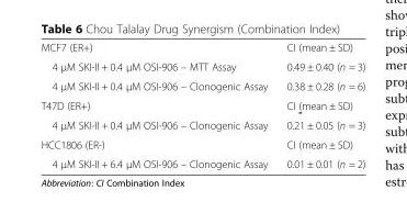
<table><tbody><tr><td>MCF7 (ER+)</td><td>CI (mean ± SD)</td></tr><tr><td>4 μM SKI-II + 0.4 μM OSI-906 – MTT Assay</td><td>0.49 ± 0.40 (n = 3)</td></tr><tr><td>4 μM SKI-II + 0.4 μM OSI-906 – Clonogenic Assay</td><td>0.38 ± 0.28 (n = 6)</td></tr><tr><td>T47D (ER+)</td><td>CI (mean ± SD)</td></tr><tr><td>4 μM SKI-II + 0.4 μM OSI-906 – Clonogenic Assay</td><td>0.21 ± 0.05 (n = 3)</td></tr><tr><td>HCC1806 (ER-)</td><td>CI (mean ± SD)</td></tr><tr><td>4 μM SKI-II + 6.4 μM OSI-906 – Clonogenic Assay</td><td>0.01 ± 0.01 (n = 2)</td></tr></tbody></table>